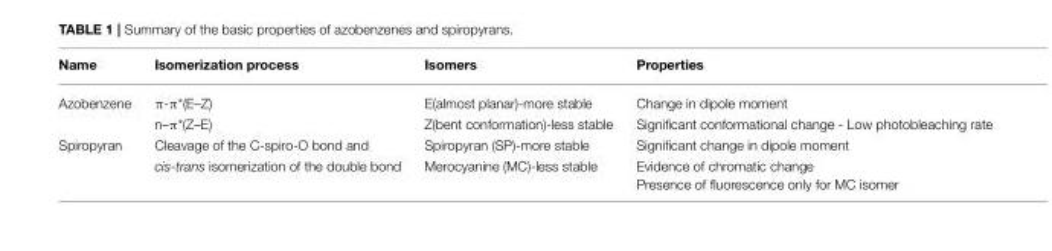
<table><thead><tr><td>Name</td><td>Isomerization process</td><td>Isomers</td><td>Properties</td></tr></thead><tbody><tr><td rowspan="2">Azobenzene</td><td>π-π*(E–Z)</td><td>E(almost planar)-more stable</td><td>Change in dipole moment</td></tr><tr><td>n–π*(Z–E)</td><td>Z(bent conformation)-less stable</td><td>Significant conformational change - Low photobleaching rate</td></tr><tr><td rowspan="2">Spiropyran</td><td>Cleavage of the C-spiro-O bond and</td><td>Spiropyran (SP)-more stable</td><td>Significant change in dipole moment</td></tr><tr><td>cis-trans isomerization of the double bond</td><td>Merocyanine (MC)-less stable</td><td>Evidence of chromatic change Presence of fluorescence only for MC isomer</td></tr></tbody></table>